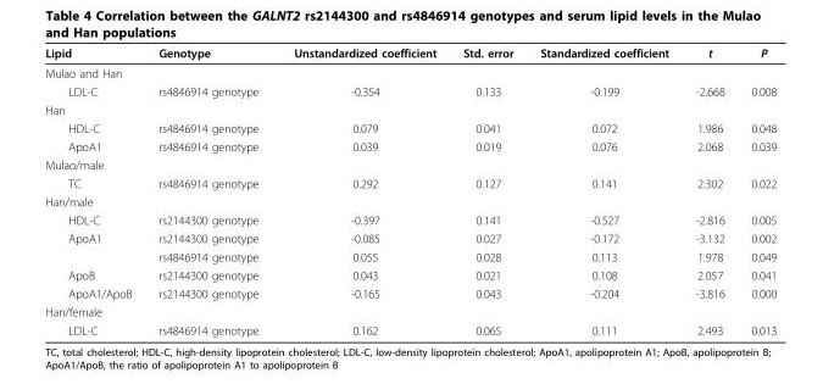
<table><thead><tr><td>Lipid</td><td>Genotype</td><td>Unstandardized coefficient</td><td>Std. error</td><td>Standardized coefficient</td><td>t</td><td>P</td></tr></thead><tbody><tr><td colspan="7">Mulao and Han</td></tr><tr><td>LDL-C</td><td>rs4846914 genotype</td><td>-0.354</td><td>0.133</td><td>-0.199</td><td>-2.668</td><td>0.008</td></tr><tr><td colspan="7">Han</td></tr><tr><td>HDL-C</td><td>rs4846914 genotype</td><td>0.079</td><td>0.041</td><td>0.072</td><td>1.986</td><td>0.048</td></tr><tr><td>ApoA1</td><td>rs4846914 genotype</td><td>0.039</td><td>0.019</td><td>0.076</td><td>2.068</td><td>0.039</td></tr><tr><td colspan="7">Mulao/male</td></tr><tr><td>TC</td><td>rs4846914 genotype</td><td>0.292</td><td>0.127</td><td>0.141</td><td>2.302</td><td>0.022</td></tr><tr><td colspan="7">Han/male</td></tr><tr><td>HDL-C</td><td>rs2144300 genotype</td><td>-0.397</td><td>0.141</td><td>-0.527</td><td>-2.816</td><td>0.005</td></tr><tr><td rowspan="2">ApoA1</td><td>rs2144300 genotype</td><td>-0.085</td><td>0.027</td><td>-0.172</td><td>-3.132</td><td>0.002</td></tr><tr><td>rs4846914 genotype</td><td>0.055</td><td>0.028</td><td>0.113</td><td>1.978</td><td>0.049</td></tr><tr><td>ApoB</td><td>rs2144300 genotype</td><td>0.043</td><td>0.021</td><td>0.108</td><td>2.057</td><td>0.041</td></tr><tr><td>ApoA1/ApoB</td><td>rs2144300 genotype</td><td>-0.165</td><td>0.043</td><td>-0.204</td><td>-3.816</td><td>0.000</td></tr><tr><td colspan="7">Han/female</td></tr><tr><td>LDL-C</td><td>rs4846914 genotype</td><td>0.162</td><td>0.065</td><td>0.111</td><td>2.493</td><td>0.013</td></tr></tbody></table>